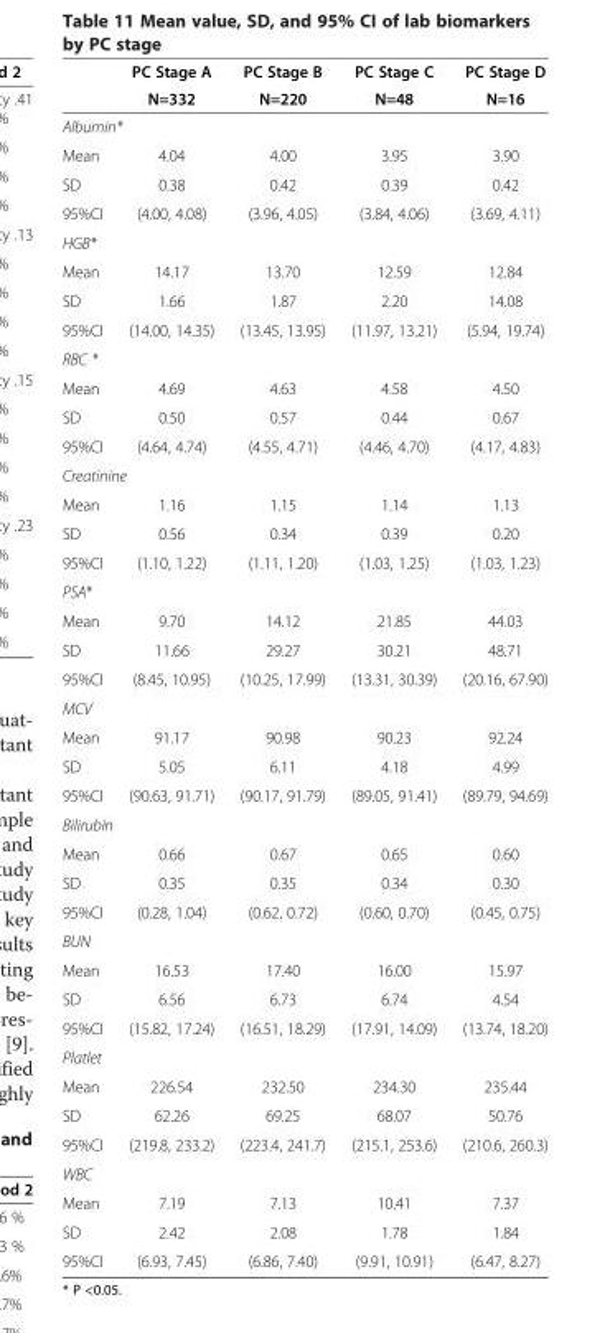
<table><thead><tr><td rowspan="2"></td><td rowspan="2">PC Stage A N=332</td><td rowspan="2">PC Stage B N=220</td><td rowspan="2">PC Stage C N=48</td><td rowspan="2">PC Stage D N=16</td></tr><tr></tr></thead><tbody><tr><td colspan="5">Albumin*</td></tr><tr><td>Mean</td><td>4.04</td><td>4.00</td><td>3.95</td><td>3.90</td></tr><tr><td>SD</td><td>0.38</td><td>0.42</td><td>0.39</td><td>0.42</td></tr><tr><td>95%CI</td><td>(4.00, 4.08)</td><td>(3.96, 4.05)</td><td>(3.84, 4.06)</td><td>(3.69, 4.11)</td></tr><tr><td colspan="5">HGB*</td></tr><tr><td>Mean</td><td>14.17</td><td>13.70</td><td>12.59</td><td>12.84</td></tr><tr><td>SD</td><td>1.66</td><td>1.87</td><td>2.20</td><td>14.08</td></tr><tr><td>95%CI</td><td>(14.00, 14.35)</td><td>(13.45, 13.95)</td><td>(11.97, 13.21)</td><td>(5.94, 19.74)</td></tr><tr><td colspan="5">RBC *</td></tr><tr><td>Mean</td><td>4.69</td><td>4.63</td><td>4.58</td><td>4.50</td></tr><tr><td>SD</td><td>0.50</td><td>0.57</td><td>0.44</td><td>0.67</td></tr><tr><td>95%CI</td><td>(4.64, 4.74)</td><td>(4.55, 4.71)</td><td>(4.46, 4.70)</td><td>(4.17, 4.83)</td></tr><tr><td colspan="5">Creatinine</td></tr><tr><td>Mean</td><td>1.16</td><td>1.15</td><td>1.14</td><td>1.13</td></tr><tr><td>SD</td><td>0.56</td><td>0.34</td><td>0.39</td><td>0.20</td></tr><tr><td>95%CI</td><td>(1.10, 1.22)</td><td>(1.11, 1.20)</td><td>(1.03, 1.25)</td><td>(1.03, 1.23)</td></tr><tr><td colspan="5">PSA*</td></tr><tr><td>Mean</td><td>9.70</td><td>14.12</td><td>21.85</td><td>44.03</td></tr><tr><td>SD</td><td>11.66</td><td>29.27</td><td>30.21</td><td>48.71</td></tr><tr><td>95%CI</td><td>(8.45, 10.95)</td><td>(10.25, 17.99)</td><td>(13.31, 30.39)</td><td>(20.16, 67.90)</td></tr><tr><td colspan="5">MCV</td></tr><tr><td>Mean</td><td>91.17</td><td>90.98</td><td>90.23</td><td>92.24</td></tr><tr><td>SD</td><td>5.05</td><td>6.11</td><td>4.18</td><td>4.99</td></tr><tr><td>95%CI</td><td>(90.63, 91.71)</td><td>(90.17, 91.79)</td><td>(89.05, 91.41)</td><td>(89.79, 94.69)</td></tr><tr><td colspan="5">Bilirubin</td></tr><tr><td>Mean</td><td>0.66</td><td>0.67</td><td>0.65</td><td>0.60</td></tr><tr><td>SD</td><td>0.35</td><td>0.35</td><td>0.34</td><td>0.30</td></tr><tr><td>95%CI</td><td>(0.28, 1.04)</td><td>(0.62, 0.72)</td><td>(0.60, 0.70)</td><td>(0.45, 0.75)</td></tr><tr><td colspan="5">BUN</td></tr><tr><td>Mean</td><td>16.53</td><td>17.40</td><td>16.00</td><td>15.97</td></tr><tr><td>SD</td><td>6.56</td><td>6.73</td><td>6.74</td><td>4.54</td></tr><tr><td>95%CI</td><td>(15.82, 17.24)</td><td>(16.51, 18.29)</td><td>(17.91, 14.09)</td><td>(13.74, 18.20)</td></tr><tr><td colspan="5">Platlet</td></tr><tr><td>Mean</td><td>226.54</td><td>232.50</td><td>234.30</td><td>235.44</td></tr><tr><td>SD</td><td>62.26</td><td>69.25</td><td>68.07</td><td>50.76</td></tr><tr><td>95%CI</td><td>(219.8, 233.2)</td><td>(223.4, 241.7)</td><td>(215.1, 253.6)</td><td>(210.6, 260.3)</td></tr><tr><td colspan="5">WBC</td></tr><tr><td>Mean</td><td>7.19</td><td>7.13</td><td>10.41</td><td>7.37</td></tr><tr><td>SD</td><td>2.42</td><td>2.08</td><td>1.78</td><td>1.84</td></tr><tr><td>95%CI</td><td>(6.93, 7.45)</td><td>(6.86, 7.40)</td><td>(9.91, 10.91)</td><td>(6.47, 8.27)</td></tr></tbody></table>